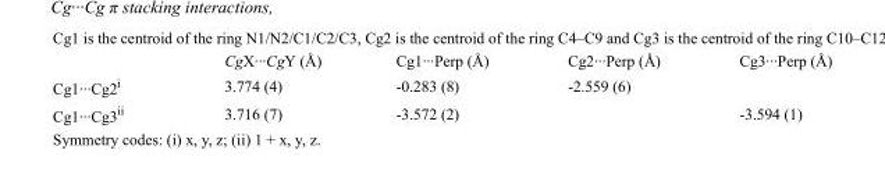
<table><thead><tr><td></td><td>CgX···CgY (Å)</td><td>Cg1···Perp (Å)</td><td>Cg2···Perp (Å)</td><td>Cg3···Perp (Å)</td></tr></thead><tbody><tr><td>Cg1···Cg2<sup>i</sup></td><td>3.774 (4)</td><td>-0.283 (8)</td><td>-2.559 (6)</td><td></td></tr><tr><td>Cg1···Cg3<sup>ii</sup></td><td>3.716 (7)</td><td>-3.572 (2)</td><td></td><td>-3.594 (1)</td></tr></tbody></table>